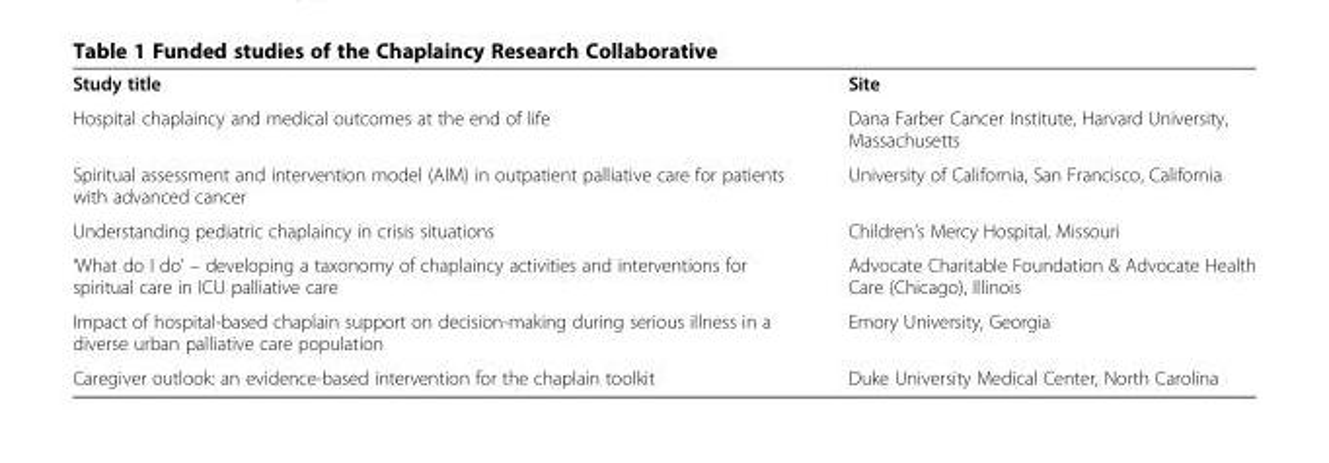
<table><tbody><tr><td>Study title</td><td>Site</td></tr><tr><td>Hospital chaplaincy and medical outcomes at the end of life</td><td>Dana Farber Cancer Institute, Harvard University, Massachusetts</td></tr><tr><td>Spiritual assessment and intervention model (AIM) in outpatient palliative care for patients with advanced cancer</td><td>University of California, San Francisco, California</td></tr><tr><td>Understanding pediatric chaplaincy in crisis situations</td><td>Children’s Mercy Hospital, Missouri</td></tr><tr><td>‘What do I do’ – developing a taxonomy of chaplaincy activities and interventions for spiritual care in ICU palliative care</td><td>Advocate Charitable Foundation &amp; Advocate Health Care (Chicago), Illinois</td></tr><tr><td>Impact of hospital-based chaplain support on decision-making during serious illness in a diverse urban palliative care population</td><td>Emory University, Georgia</td></tr><tr><td>Caregiver outlook: an evidence-based intervention for the chaplain toolkit</td><td>Duke University Medical Center, North Carolina</td></tr></tbody></table>